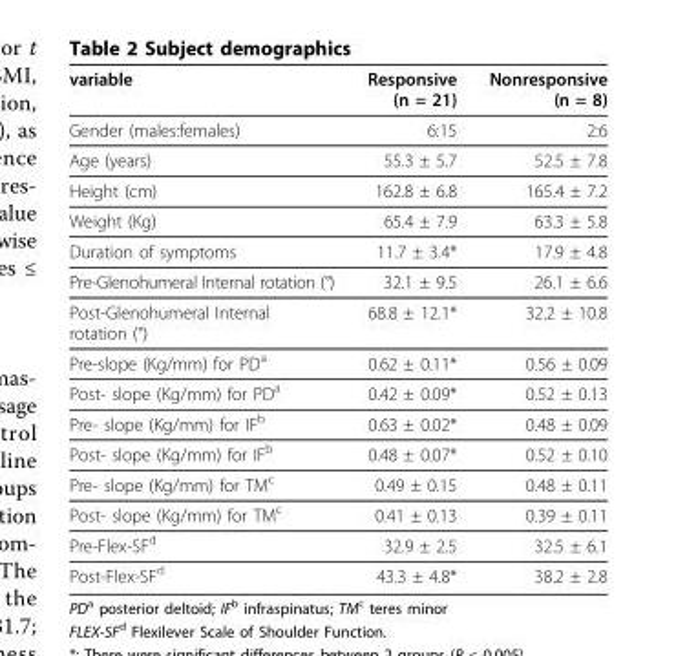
<table><thead><tr><td>variable</td><td>Responsive (n = 21)</td><td>Nonresponsive (n = 8)</td></tr></thead><tbody><tr><td>Gender (males:females)</td><td>6:15</td><td>2:6</td></tr><tr><td>Age (years)</td><td>55.3 ± 5.7</td><td>52.5 ± 7.8</td></tr><tr><td>Height (cm)</td><td>162.8 ± 6.8</td><td>165.4 ± 7.2</td></tr><tr><td>Weight (Kg)</td><td>65.4 ± 7.9</td><td>63.3 ± 5.8</td></tr><tr><td>Duration of symptoms</td><td>11.7 ± 3.4*</td><td>17.9 ± 4.8</td></tr><tr><td>Pre-Glenohumeral Internal rotation (°)</td><td>32.1 ± 9.5</td><td>26.1 ± 6.6</td></tr><tr><td>Post-Glenohumeral Internal rotation (°)</td><td>68.8 ± 12.1*</td><td>32.2 ± 10.8</td></tr><tr><td>Pre-slope (Kg/mm) for PD<sup>a</sup></td><td>0.62 ± 0.11*</td><td>0.56 ± 0.09</td></tr><tr><td>Post- slope (Kg/mm) for PD<sup>a</sup></td><td>0.42 ± 0.09*</td><td>0.52 ± 0.13</td></tr><tr><td>Pre- slope (Kg/mm) for IF<sup>b</sup></td><td>0.63 ± 0.02*</td><td>0.48 ± 0.09</td></tr><tr><td>Post- slope (Kg/mm) for IF<sup>b</sup></td><td>0.48 ± 0.07*</td><td>0.52 ± 0.10</td></tr><tr><td>Pre- slope (Kg/mm) for TM<sup>c</sup></td><td>0.49 ± 0.15</td><td>0.48 ± 0.11</td></tr><tr><td>Post- slope (Kg/mm) for TM<sup>c</sup></td><td>0.41 ± 0.13</td><td>0.39 ± 0.11</td></tr><tr><td>Pre-Flex-SF<sup>d</sup></td><td>32.9 ± 2.5</td><td>32.5 ± 6.1</td></tr><tr><td>Post-Flex-SF<sup>d</sup></td><td>43.3 ± 4.8*</td><td>38.2 ± 2.8</td></tr></tbody></table>